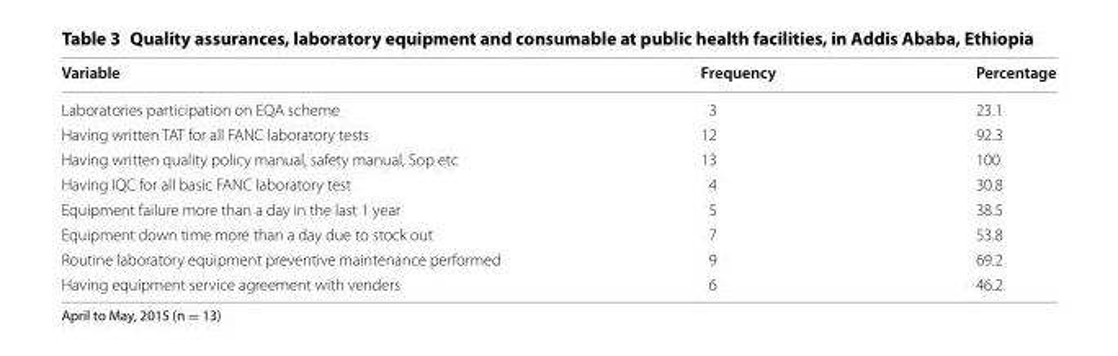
<table><thead><tr><td>Variable</td><td>Frequency</td><td>Percentage</td></tr></thead><tbody><tr><td>Laboratories participation on EQA scheme</td><td>3</td><td>23.1</td></tr><tr><td>Having written TAT for all FANC laboratory tests</td><td>12</td><td>92.3</td></tr><tr><td>Having written quality policy manual, safety manual, Sop etc</td><td>13</td><td>100</td></tr><tr><td>Having IQC for all basic FANC laboratory test</td><td>4</td><td>30.8</td></tr><tr><td>Equipment failure more than a day in the last 1 year</td><td>5</td><td>38.5</td></tr><tr><td>Equipment down time more than a day due to stock out</td><td>7</td><td>53.8</td></tr><tr><td>Routine laboratory equipment preventive maintenance performed</td><td>9</td><td>69.2</td></tr><tr><td>Having equipment service agreement with venders</td><td>6</td><td>46.2</td></tr></tbody></table>